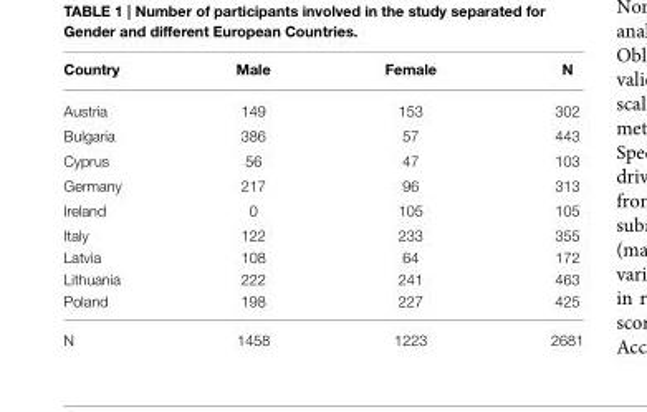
<table><thead><tr><td>Country</td><td>Male</td><td>Female</td><td>N</td></tr></thead><tbody><tr><td>Austria</td><td>149</td><td>153</td><td>302</td></tr><tr><td>Bulgaria</td><td>386</td><td>57</td><td>443</td></tr><tr><td>Cyprus</td><td>56</td><td>47</td><td>103</td></tr><tr><td>Germany</td><td>217</td><td>96</td><td>313</td></tr><tr><td>Ireland</td><td>0</td><td>105</td><td>105</td></tr><tr><td>Italy</td><td>122</td><td>233</td><td>355</td></tr><tr><td>Latvia</td><td>108</td><td>64</td><td>172</td></tr><tr><td>Lithuania</td><td>222</td><td>241</td><td>463</td></tr><tr><td>Poland</td><td>198</td><td>227</td><td>425</td></tr><tr><td>N</td><td>1458</td><td>1223</td><td>2681</td></tr></tbody></table>